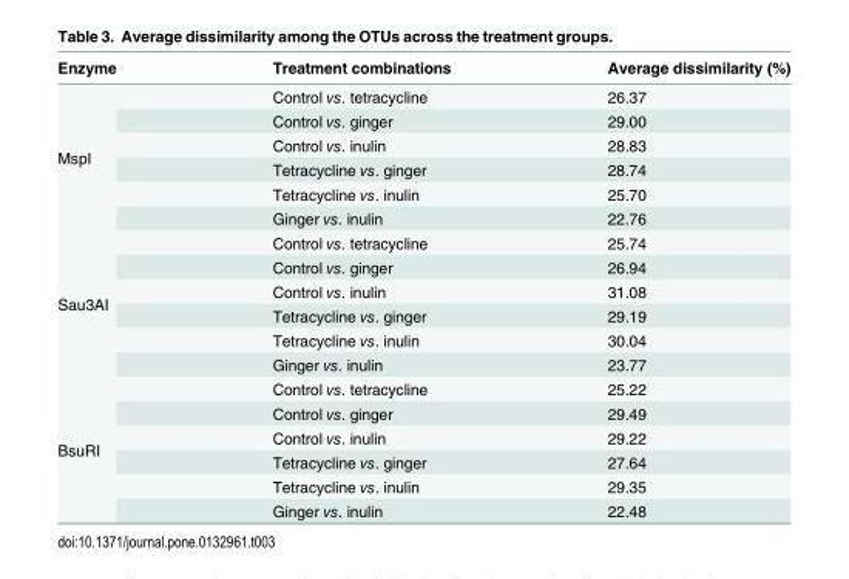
<table><thead><tr><td>Enzyme</td><td>Treatment combinations</td><td>Average dissimilarity (%)</td></tr></thead><tbody><tr><td rowspan="6">MspI</td><td>Control vs. tetracycline</td><td>26.37</td></tr><tr><td>Control vs. ginger</td><td>29.00</td></tr><tr><td>Control vs. inulin</td><td>28.83</td></tr><tr><td>Tetracycline vs. ginger</td><td>28.74</td></tr><tr><td>Tetracycline vs. inulin</td><td>25.70</td></tr><tr><td>Ginger vs. inulin</td><td>22.76</td></tr><tr><td rowspan="6">Sau3AI</td><td>Control vs. tetracycline</td><td>25.74</td></tr><tr><td>Control vs. ginger</td><td>26.94</td></tr><tr><td>Control vs. inulin</td><td>31.08</td></tr><tr><td>Tetracycline vs. ginger</td><td>29.19</td></tr><tr><td>Tetracycline vs. inulin</td><td>30.04</td></tr><tr><td>Ginger vs. inulin</td><td>23.77</td></tr><tr><td rowspan="6">BsuRI</td><td>Control vs. tetracycline</td><td>25.22</td></tr><tr><td>Control vs. ginger</td><td>29.49</td></tr><tr><td>Control vs. inulin</td><td>29.22</td></tr><tr><td>Tetracycline vs. ginger</td><td>27.64</td></tr><tr><td>Tetracycline vs. inulin</td><td>29.35</td></tr><tr><td>Ginger vs. inulin</td><td>22.48</td></tr></tbody></table>